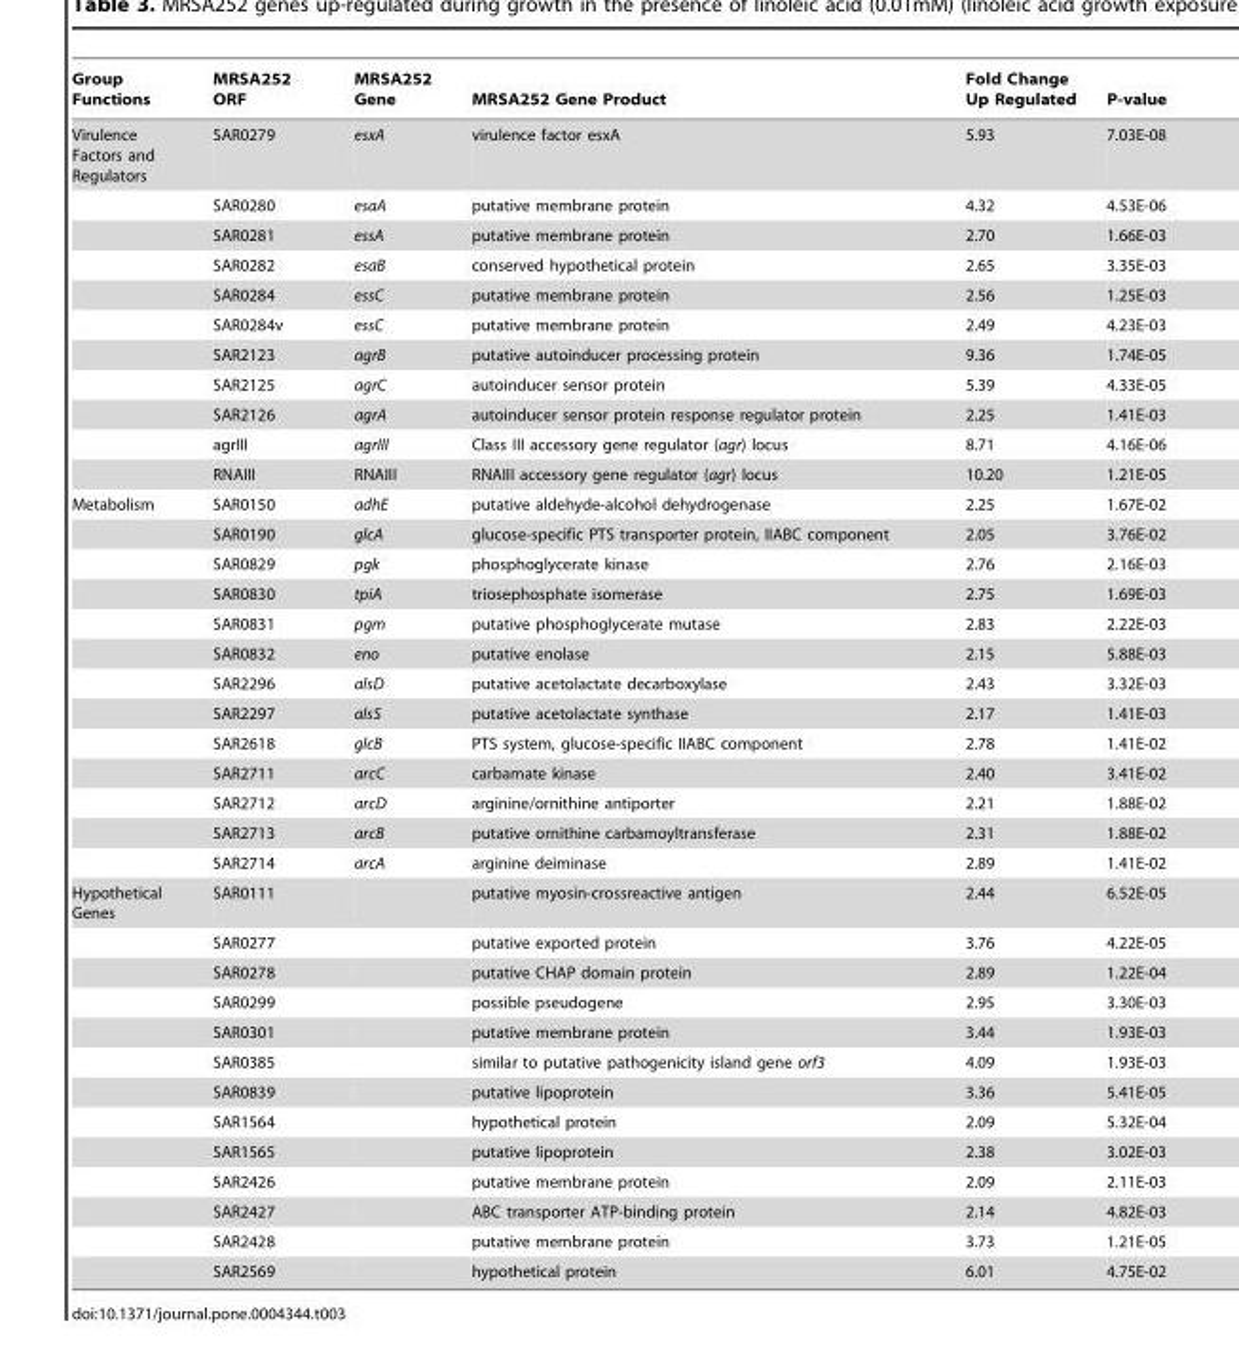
<table><thead><tr><td>Group Functions</td><td>MRSA252 ORF</td><td>MRSA252 Gene</td><td>MRSA252 Gene Product</td><td>Fold Change Up Regulated</td><td>P-value</td></tr></thead><tbody><tr><td rowspan="11">Virulence Factors and Regulators</td><td>SAR0279</td><td>esxA</td><td>virulence factor esxA</td><td>5.93</td><td>7.03E-08</td></tr><tr><td>SAR0280</td><td>esaA</td><td>putative membrane protein</td><td>4.32</td><td>4.53E-06</td></tr><tr><td>SAR0281</td><td>essA</td><td>putative membrane protein</td><td>2.70</td><td>1.66E-03</td></tr><tr><td>SAR0282</td><td>esaB</td><td>conserved hypothetical protein</td><td>2.65</td><td>3.35E-03</td></tr><tr><td>SAR0284</td><td>essC</td><td>putative membrane protein</td><td>2.56</td><td>1.25E-03</td></tr><tr><td>SAR0284v</td><td>essC</td><td>putative membrane protein</td><td>2.49</td><td>4.23E-03</td></tr><tr><td>SAR2123</td><td>agrB</td><td>putative autoinducer processing protein</td><td>9.36</td><td>1.74E-05</td></tr><tr><td>SAR2125</td><td>agrC</td><td>autoinducer sensor protein</td><td>5.39</td><td>4.33E-05</td></tr><tr><td>SAR2126</td><td>agrA</td><td>autoinducer sensor protein response regulator protein</td><td>2.25</td><td>1.41E-03</td></tr><tr><td>agrIII</td><td>agrIII</td><td>Class III accessory gene regulator (agr) locus</td><td>8.71</td><td>4.16E-06</td></tr><tr><td>RNAIII</td><td>RNAIII</td><td>RNAIII accessory gene regulator (agr) locus</td><td>10.20</td><td>1.21E-05</td></tr><tr><td rowspan="13">Metabolism</td><td>SAR0150</td><td>adhE</td><td>putative aldehyde-alcohol dehydrogenase</td><td>2.25</td><td>1.67E-02</td></tr><tr><td>SAR0190</td><td>glcA</td><td>glucose-specific PTS transporter protein, IIABC component</td><td>2.05</td><td>3.76E-02</td></tr><tr><td>SAR0829</td><td>pgk</td><td>phosphoglycerate kinase</td><td>2.76</td><td>2.16E-03</td></tr><tr><td>SAR0830</td><td>tpiA</td><td>triosephosphate isomerase</td><td>2.75</td><td>1.69E-03</td></tr><tr><td>SAR0831</td><td>pgm</td><td>putative phosphoglycerate mutase</td><td>2.83</td><td>2.22E-03</td></tr><tr><td>SAR0832</td><td>eno</td><td>putative enolase</td><td>2.15</td><td>5.88E-03</td></tr><tr><td>SAR2296</td><td>alsD</td><td>putative acetolactate decarboxylase</td><td>2.43</td><td>3.32E-03</td></tr><tr><td>SAR2297</td><td>alsS</td><td>putative acetolactate synthase</td><td>2.17</td><td>1.41E-03</td></tr><tr><td>SAR2618</td><td>glcB</td><td>PTS system, glucose-specific IIABC component</td><td>2.78</td><td>1.41E-02</td></tr><tr><td>SAR2711</td><td>arcC</td><td>carbamate kinase</td><td>2.40</td><td>3.41E-02</td></tr><tr><td>SAR2712</td><td>arcD</td><td>arginine/ornithine antiporter</td><td>2.21</td><td>1.88E-02</td></tr><tr><td>SAR2713</td><td>arcB</td><td>putative ornithine carbamoyltransferase</td><td>2.31</td><td>1.88E-02</td></tr><tr><td>SAR2714</td><td>arcA</td><td>arginine deiminase</td><td>2.89</td><td>1.41E-02</td></tr><tr><td rowspan="13">Hypothetical Genes</td><td>SAR0111</td><td></td><td>putative myosin-crossreactive antigen</td><td>2.44</td><td>6.52E-05</td></tr><tr><td>SAR0277</td><td></td><td>putative exported protein</td><td>3.76</td><td>4.22E-05</td></tr><tr><td>SAR0278</td><td></td><td>putative CHAP domain protein</td><td>2.89</td><td>1.22E-04</td></tr><tr><td>SAR0299</td><td></td><td>possible pseudogene</td><td>2.95</td><td>3.30E-03</td></tr><tr><td>SAR0301</td><td></td><td>putative membrane protein</td><td>3.44</td><td>1.93E-03</td></tr><tr><td>SAR0385</td><td></td><td>similar to putative pathogenicity island gene orf3</td><td>4.09</td><td>1.93E-03</td></tr><tr><td>SAR0839</td><td></td><td>putative lipoprotein</td><td>3.36</td><td>5.41E-05</td></tr><tr><td>SAR1564</td><td></td><td>hypothetical protein</td><td>2.09</td><td>5.32E-04</td></tr><tr><td>SAR1565</td><td></td><td>putative lipoprotein</td><td>2.38</td><td>3.02E-03</td></tr><tr><td>SAR2426</td><td></td><td>putative membrane protein</td><td>2.09</td><td>2.11E-03</td></tr><tr><td>SAR2427</td><td></td><td>ABC transporter ATP-binding protein</td><td>2.14</td><td>4.82E-03</td></tr><tr><td>SAR2428</td><td></td><td>putative membrane protein</td><td>3.73</td><td>1.21E-05</td></tr><tr><td>SAR2569</td><td></td><td>hypothetical protein</td><td>6.01</td><td>4.75E-02</td></tr></tbody></table>